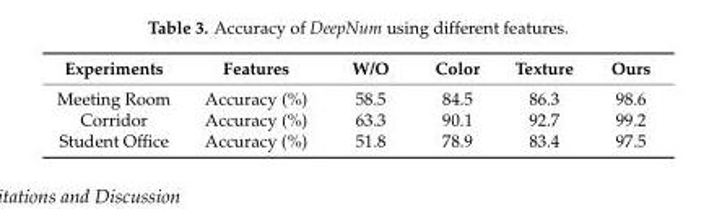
<table><thead><tr><td>Experiments</td><td>Features</td><td>W/O</td><td>Color</td><td>Texture</td><td>Ours</td></tr></thead><tbody><tr><td>Meeting Room</td><td>Accuracy (%)</td><td>58.5</td><td>84.5</td><td>86.3</td><td>98.6</td></tr><tr><td>Corridor</td><td>Accuracy (%)</td><td>63.3</td><td>90.1</td><td>92.7</td><td>99.2</td></tr><tr><td>Student Office</td><td>Accuracy (%)</td><td>51.8</td><td>78.9</td><td>83.4</td><td>97.5</td></tr></tbody></table>